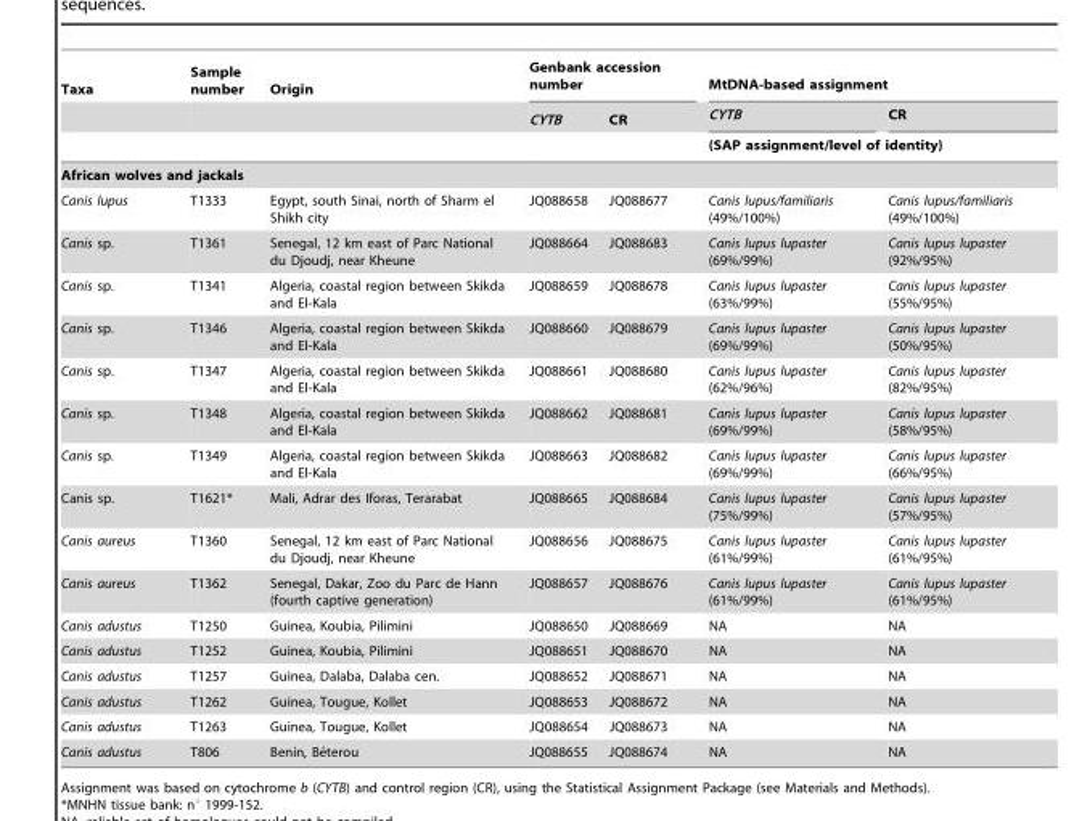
<table><thead><tr><td rowspan="3">Taxa</td><td rowspan="3">Sample number</td><td rowspan="3">Origin</td><td colspan="2">Genbank accession number</td><td colspan="2">MtDNA-based assignment</td></tr><tr><td rowspan="2">CYTB</td><td rowspan="2">CR</td><td>CYTB</td><td>CR</td></tr><tr><td colspan="2">(SAP assignment/level of identity)</td></tr></thead><tbody><tr><td colspan="7">African wolves and jackals</td></tr><tr><td>Canis lupus</td><td>T1333</td><td>Egypt, south Sinai, north of Sharm el Shikh city</td><td>JQ088658</td><td>JQ088677</td><td>Canis lupus/familiaris (49%/100%)</td><td>Canis lupus/familiaris (49%/100%)</td></tr><tr><td>Canis sp.</td><td>T1361</td><td>Senegal, 12 km east of Parc National du Djoudj, near Kheune</td><td>JQ088664</td><td>JQ088683</td><td>Canis lupus lupaster (69%/99%)</td><td>Canis lupus lupaster (92%/95%)</td></tr><tr><td>Canis sp.</td><td>T1341</td><td>Algeria, coastal region between Skikda and El-Kala</td><td>JQ088659</td><td>JQ088678</td><td>Canis lupus lupaster (63%/99%)</td><td>Canis lupus lupaster (55%/95%)</td></tr><tr><td>Canis sp.</td><td>T1346</td><td>Algeria, coastal region between Skikda and El-Kala</td><td>JQ088660</td><td>JQ088679</td><td>Canis lupus lupaster (69%/99%)</td><td>Canis lupus lupaster (50%/95%)</td></tr><tr><td>Canis sp.</td><td>T1347</td><td>Algeria, coastal region between Skikda and El-Kala</td><td>JQ088661</td><td>JQ088680</td><td>Canis lupus lupaster (62%/96%)</td><td>Canis lupus lupaster (82%/95%)</td></tr><tr><td>Canis sp.</td><td>T1348</td><td>Algeria, coastal region between Skikda and El-Kala</td><td>JQ088662</td><td>JQ088681</td><td>Canis lupus lupaster (69%/99%)</td><td>Canis lupus lupaster (58%/95%)</td></tr><tr><td>Canis sp.</td><td>T1349</td><td>Algeria, coastal region between Skikda and El-Kala</td><td>JQ088663</td><td>JQ088682</td><td>Canis lupus lupaster (69%/99%)</td><td>Canis lupus lupaster (66%/95%)</td></tr><tr><td>Canis sp.</td><td>T1621*</td><td>Mali, Adrar des Iforas, Terarabat</td><td>JQ088665</td><td>JQ088684</td><td>Canis lupus lupaster (75%/99%)</td><td>Canis lupus lupaster (57%/95%)</td></tr><tr><td>Canis aureus</td><td>T1360</td><td>Senegal, 12 km east of Parc National du Djoudj, near Kheune</td><td>JQ088656</td><td>JQ088675</td><td>Canis lupus lupaster (61%/99%)</td><td>Canis lupus lupaster (61%/95%)</td></tr><tr><td>Canis aureus</td><td>T1362</td><td>Senegal, Dakar, Zoo du Parc de Hann (fourth captive generation)</td><td>JQ088657</td><td>JQ088676</td><td>Canis lupus lupaster (61%/99%)</td><td>Canis lupus lupaster (61%/95%)</td></tr><tr><td>Canis adustus</td><td>T1250</td><td>Guinea, Koubia, Pilimini</td><td>JQ088650</td><td>JQ088669</td><td>NA</td><td>NA</td></tr><tr><td>Canis adustus</td><td>T1252</td><td>Guinea, Koubia, Pilimini</td><td>JQ088651</td><td>JQ088670</td><td>NA</td><td>NA</td></tr><tr><td>Canis adustus</td><td>T1257</td><td>Guinea, Dalaba, Dalaba cen.</td><td>JQ088652</td><td>JQ088671</td><td>NA</td><td>NA</td></tr><tr><td>Canis adustus</td><td>T1262</td><td>Guinea, Tougue, Kollet</td><td>JQ088653</td><td>JQ088672</td><td>NA</td><td>NA</td></tr><tr><td>Canis adustus</td><td>T1263</td><td>Guinea, Tougue, Kollet</td><td>JQ088654</td><td>JQ088673</td><td>NA</td><td>NA</td></tr><tr><td>Canis adustus</td><td>T806</td><td>Benin, Be´terou</td><td>JQ088655</td><td>JQ088674</td><td>NA</td><td>NA</td></tr></tbody></table>